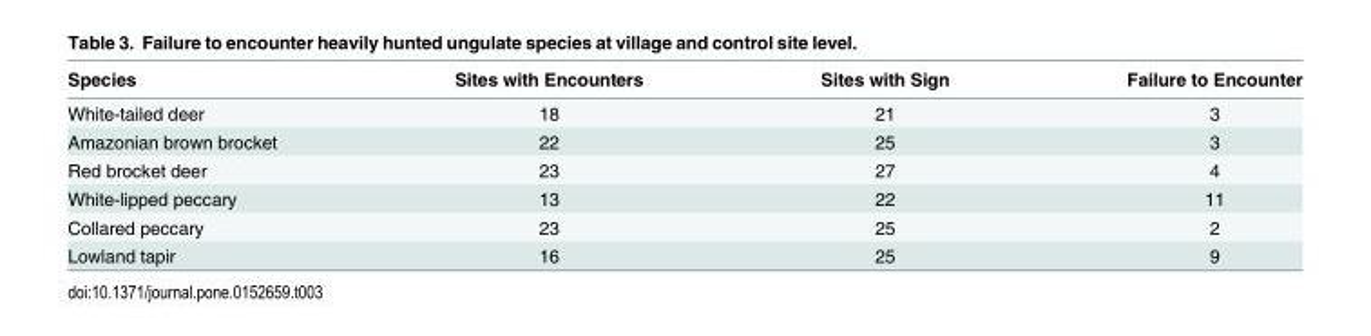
<table><thead><tr><td>Species</td><td>Sites with Encounters</td><td>Sites with Sign</td><td>Failure to Encounter</td></tr></thead><tbody><tr><td>White-tailed deer</td><td>18</td><td>21</td><td>3</td></tr><tr><td>Amazonian brown brocket</td><td>22</td><td>25</td><td>3</td></tr><tr><td>Red brocket deer</td><td>23</td><td>27</td><td>4</td></tr><tr><td>White-lipped peccary</td><td>13</td><td>22</td><td>11</td></tr><tr><td>Collared peccary</td><td>23</td><td>25</td><td>2</td></tr><tr><td>Lowland tapir</td><td>16</td><td>25</td><td>9</td></tr></tbody></table>